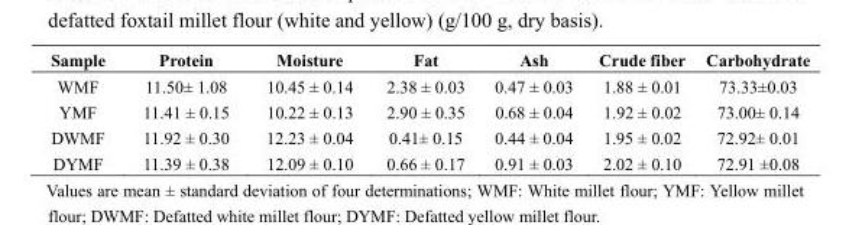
<table><thead><tr><td>Sample</td><td>Protein</td><td>Moisture</td><td>Fat</td><td>Ash</td><td>Crude fiber</td><td>Carbohydrate</td></tr></thead><tbody><tr><td>WMF</td><td>11.50± 1.08</td><td>10.45 ± 0.14</td><td>2.38 ± 0.03</td><td>0.47 ± 0.03</td><td>1.88 ± 0.01</td><td>73.33±0.03</td></tr><tr><td>YMF</td><td>11.41 ± 0.15</td><td>10.22 ± 0.13</td><td>2.90 ± 0.35</td><td>0.68 ± 0.04</td><td>1.92 ± 0.02</td><td>73.00± 0.14</td></tr><tr><td>DWMF</td><td>11.92 ± 0.30</td><td>12.23 ± 0.04</td><td>0.41± 0.15</td><td>0.44 ± 0.04</td><td>1.95 ± 0.02</td><td>72.92± 0.01</td></tr><tr><td>DYMF</td><td>11.39 ± 0.38</td><td>12.09 ± 0.10</td><td>0.66 ± 0.17</td><td>0.91 ± 0.03</td><td>2.02 ± 0.10</td><td>72.91 ±0.08</td></tr></tbody></table>